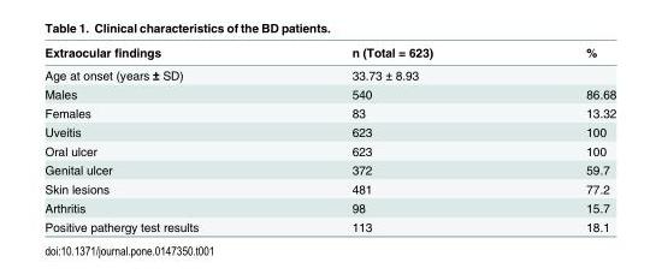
<table><thead><tr><td>Extraocular findings</td><td>n (Total = 623)</td><td>%</td></tr></thead><tbody><tr><td>Age at onset (years ± SD)</td><td>33.73 ± 8.93</td><td></td></tr><tr><td>Males</td><td>540</td><td>86.68</td></tr><tr><td>Females</td><td>83</td><td>13.32</td></tr><tr><td>Uveitis</td><td>623</td><td>100</td></tr><tr><td>Oral ulcer</td><td>623</td><td>100</td></tr><tr><td>Genital ulcer</td><td>372</td><td>59.7</td></tr><tr><td>Skin lesions</td><td>481</td><td>77.2</td></tr><tr><td>Arthritis</td><td>98</td><td>15.7</td></tr><tr><td>Positive pathergy test results</td><td>113</td><td>18.1</td></tr></tbody></table>